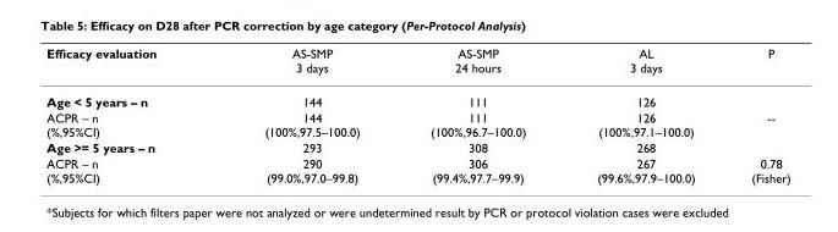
<table><thead><tr><td>Efficacy evaluation</td><td>AS-SMP 3 days</td><td>AS-SMP 24 hours</td><td>AL 3 days</td><td>P</td></tr></thead><tbody><tr><td>Age &lt; 5 years – n</td><td>144</td><td>111</td><td>126</td><td></td></tr><tr><td>ACPR – n (%,95%CI)</td><td>144 (100%,97.5–100.0)</td><td>111 (100%,96.7–100.0)</td><td>126 (100%,97.1–100.0)</td><td>--</td></tr><tr><td>Age &gt;= 5 years – n</td><td>293</td><td>308</td><td>268</td><td></td></tr><tr><td>ACPR – n (%,95%CI)</td><td>290 (99.0%,97.0–99.8)</td><td>306 (99.4%,97.7–99.9)</td><td>267 (99.6%,97.9–100.0)</td><td>0.78 (Fisher)</td></tr></tbody></table>